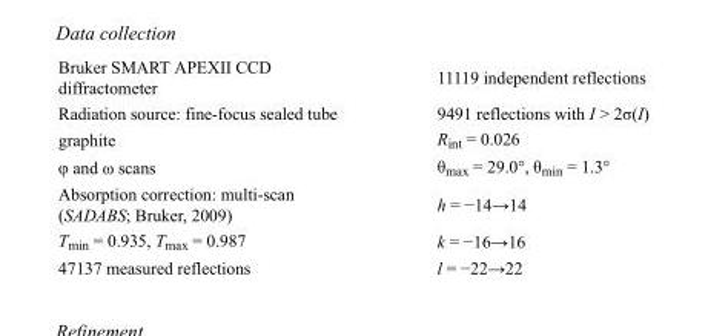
<table><tbody><tr><td>Bruker SMART APEXII CCD diffractometer</td><td>11119 independent reflections</td></tr><tr><td>Radiation source: fine-focus sealed tube</td><td>9491 reflections with I &gt; 2σ(I)</td></tr><tr><td>graphite</td><td>R<sub>int</sub> = 0.026</td></tr><tr><td>φ and ω scans</td><td>θ<sub>max</sub> = 29.0°, θ<sub>min</sub> = 1.3°</td></tr><tr><td>Absorption correction: multi-scan (SADABS; Bruker, 2009)</td><td>h = −14→14</td></tr><tr><td>T<sub>min</sub> = 0.935, T<sub>max</sub> = 0.987</td><td>k = −16→16</td></tr><tr><td>47137 measured reflections</td><td>l = −22→22</td></tr></tbody></table>